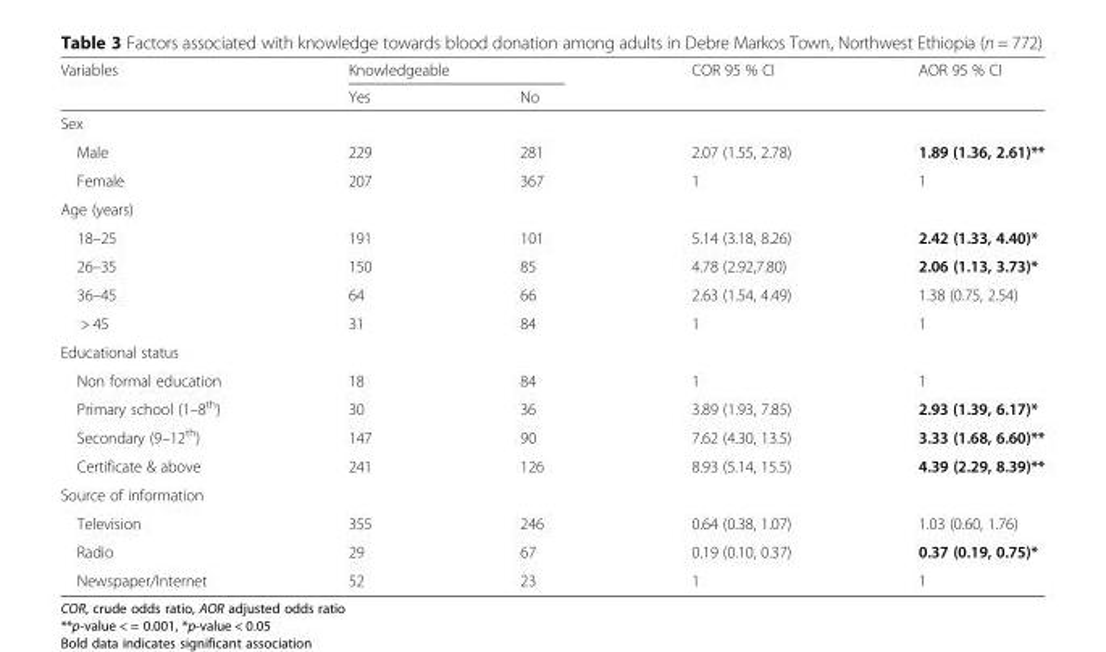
<table><thead><tr><td rowspan="2">Variables</td><td colspan="2">Knowledgeable</td><td rowspan="2">COR 95 % CI</td><td rowspan="2">AOR 95 % CI</td></tr><tr><td>Yes</td><td>No</td></tr></thead><tbody><tr><td colspan="5">Sex</td></tr><tr><td>Male</td><td>229</td><td>281</td><td>2.07 (1.55, 2.78)</td><td>1.89 (1.36, 2.61)**</td></tr><tr><td>Female</td><td>207</td><td>367</td><td>1</td><td>1</td></tr><tr><td colspan="5">Age (years)</td></tr><tr><td>18–25</td><td>191</td><td>101</td><td>5.14 (3.18, 8.26)</td><td>2.42 (1.33, 4.40)*</td></tr><tr><td>26–35</td><td>150</td><td>85</td><td>4.78 (2.92,7.80)</td><td>2.06 (1.13, 3.73)*</td></tr><tr><td>36–45</td><td>64</td><td>66</td><td>2.63 (1.54, 4.49)</td><td>1.38 (0.75, 2.54)</td></tr><tr><td>&gt; 45</td><td>31</td><td>84</td><td>1</td><td>1</td></tr><tr><td colspan="5">Educational status</td></tr><tr><td>Non formal education</td><td>18</td><td>84</td><td>1</td><td>1</td></tr><tr><td>Primary school (1–8<sup>th</sup>)</td><td>30</td><td>36</td><td>3.89 (1.93, 7.85)</td><td>2.93 (1.39, 6.17)*</td></tr><tr><td>Secondary (9–12<sup>th</sup>)</td><td>147</td><td>90</td><td>7.62 (4.30, 13.5)</td><td>3.33 (1.68, 6.60)**</td></tr><tr><td>Certificate &amp; above</td><td>241</td><td>126</td><td>8.93 (5.14, 15.5)</td><td>4.39 (2.29, 8.39)**</td></tr><tr><td colspan="5">Source of information</td></tr><tr><td>Television</td><td>355</td><td>246</td><td>0.64 (0.38, 1.07)</td><td>1.03 (0.60, 1.76)</td></tr><tr><td>Radio</td><td>29</td><td>67</td><td>0.19 (0.10, 0.37)</td><td>0.37 (0.19, 0.75)*</td></tr><tr><td>Newspaper/Internet</td><td>52</td><td>23</td><td>1</td><td>1</td></tr></tbody></table>